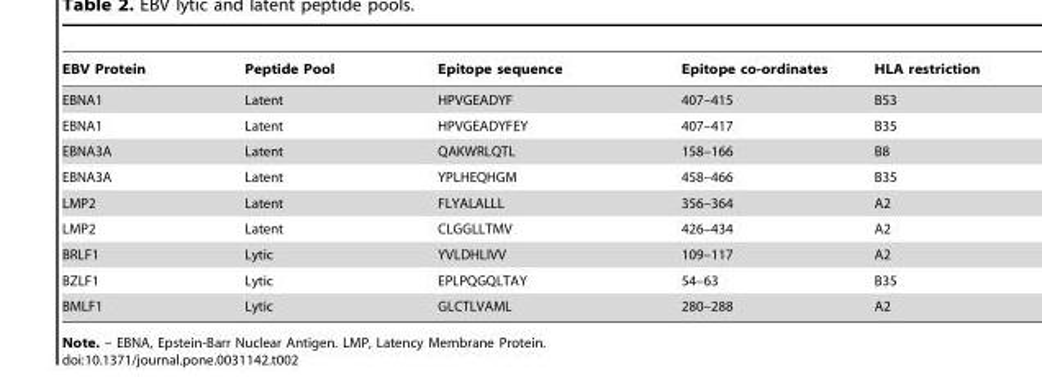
<table><thead><tr><td>EBV Protein</td><td>Peptide Pool</td><td>Epitope sequence</td><td>Epitope co-ordinates</td><td>HLA restriction</td></tr></thead><tbody><tr><td>EBNA1</td><td>Latent</td><td>HPVGEADYF</td><td>407–415</td><td>B53</td></tr><tr><td>EBNA1</td><td>Latent</td><td>HPVGEADYFEY</td><td>407–417</td><td>B35</td></tr><tr><td>EBNA3A</td><td>Latent</td><td>QAKWRLQTL</td><td>158–166</td><td>B8</td></tr><tr><td>EBNA3A</td><td>Latent</td><td>YPLHEQHGM</td><td>458–466</td><td>B35</td></tr><tr><td>LMP2</td><td>Latent</td><td>FLYALALLL</td><td>356–364</td><td>A2</td></tr><tr><td>LMP2</td><td>Latent</td><td>CLGGLLTMV</td><td>426–434</td><td>A2</td></tr><tr><td>BRLF1</td><td>Lytic</td><td>YVLDHLIVV</td><td>109–117</td><td>A2</td></tr><tr><td>BZLF1</td><td>Lytic</td><td>EPLPQGQLTAY</td><td>54–63</td><td>B35</td></tr><tr><td>BMLF1</td><td>Lytic</td><td>GLCTLVAML</td><td>280–288</td><td>A2</td></tr></tbody></table>